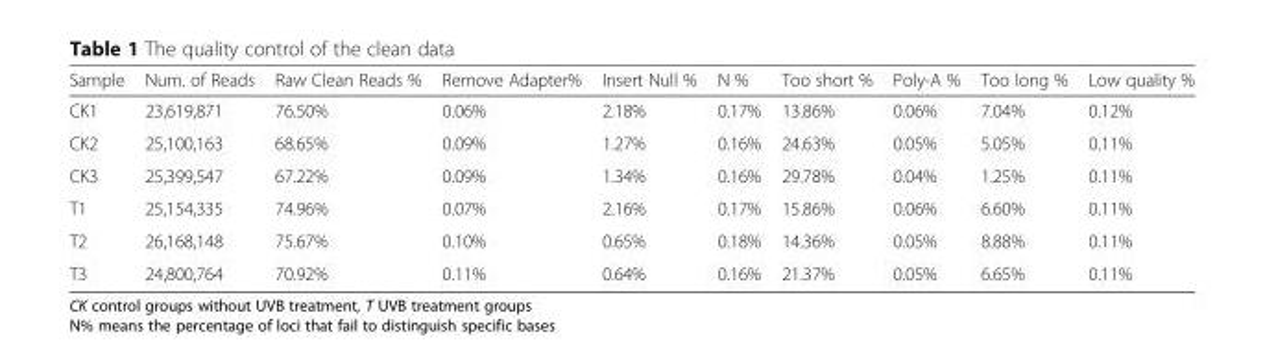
<table><thead><tr><td>Sample</td><td>Num. of Reads</td><td>Raw Clean Reads %</td><td>Remove Adapter%</td><td>Insert Null %</td><td>N %</td><td>Too short %</td><td>Poly-A %</td><td>Too long %</td><td>Low quality %</td></tr></thead><tbody><tr><td>CK1</td><td>23,619,871</td><td>76.50%</td><td>0.06%</td><td>2.18%</td><td>0.17%</td><td>13.86%</td><td>0.06%</td><td>7.04%</td><td>0.12%</td></tr><tr><td>CK2</td><td>25,100,163</td><td>68.65%</td><td>0.09%</td><td>1.27%</td><td>0.16%</td><td>24.63%</td><td>0.05%</td><td>5.05%</td><td>0.11%</td></tr><tr><td>CK3</td><td>25,399,547</td><td>67.22%</td><td>0.09%</td><td>1.34%</td><td>0.16%</td><td>29.78%</td><td>0.04%</td><td>1.25%</td><td>0.11%</td></tr><tr><td>T1</td><td>25,154,335</td><td>74.96%</td><td>0.07%</td><td>2.16%</td><td>0.17%</td><td>15.86%</td><td>0.06%</td><td>6.60%</td><td>0.11%</td></tr><tr><td>T2</td><td>26,168,148</td><td>75.67%</td><td>0.10%</td><td>0.65%</td><td>0.18%</td><td>14.36%</td><td>0.05%</td><td>8.88%</td><td>0.11%</td></tr><tr><td>T3</td><td>24,800,764</td><td>70.92%</td><td>0.11%</td><td>0.64%</td><td>0.16%</td><td>21.37%</td><td>0.05%</td><td>6.65%</td><td>0.11%</td></tr></tbody></table>